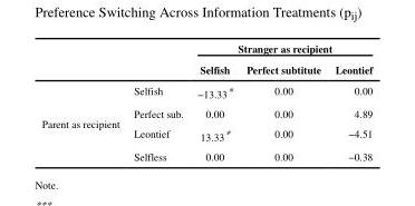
<table><thead><tr><td rowspan="2"></td><td rowspan="2"></td><td colspan="3">Stranger as recipient</td></tr><tr><td>Selfish</td><td>Perfect subtitute</td><td>Leontief</td></tr></thead><tbody><tr><td rowspan="4">Parent as recipient</td><td>Selfish</td><td>−13.33*</td><td>0.00</td><td>0.00</td></tr><tr><td>Perfect sub.</td><td>0.00</td><td>0.00</td><td>4.89</td></tr><tr><td>Leontief</td><td>13.33*</td><td>0.00</td><td>−4.51</td></tr><tr><td>Selfless</td><td>0.00</td><td>0.00</td><td>−0.38</td></tr></tbody></table>